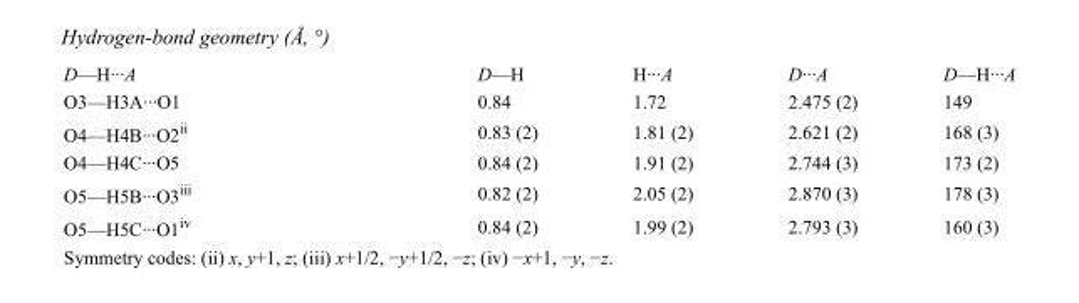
<table><tbody><tr><td>D—H···A</td><td>D—H</td><td>H···A</td><td>D···A</td><td>D—H···A</td></tr><tr><td>O3—H3A···O1</td><td>0.84</td><td>1.72</td><td>2.475 (2)</td><td>149</td></tr><tr><td>O4—H4B···O2<sup>ii</sup></td><td>0.83 (2)</td><td>1.81 (2)</td><td>2.621 (2)</td><td>168 (3)</td></tr><tr><td>O4—H4C···O5</td><td>0.84 (2)</td><td>1.91 (2)</td><td>2.744 (3)</td><td>173 (2)</td></tr><tr><td>O5—H5B···O3<sup>iii</sup></td><td>0.82 (2)</td><td>2.05 (2)</td><td>2.870 (3)</td><td>178 (3)</td></tr><tr><td>O5—H5C···O1<sup>iv</sup></td><td>0.84 (2)</td><td>1.99 (2)</td><td>2.793 (3)</td><td>160 (3)</td></tr></tbody></table>